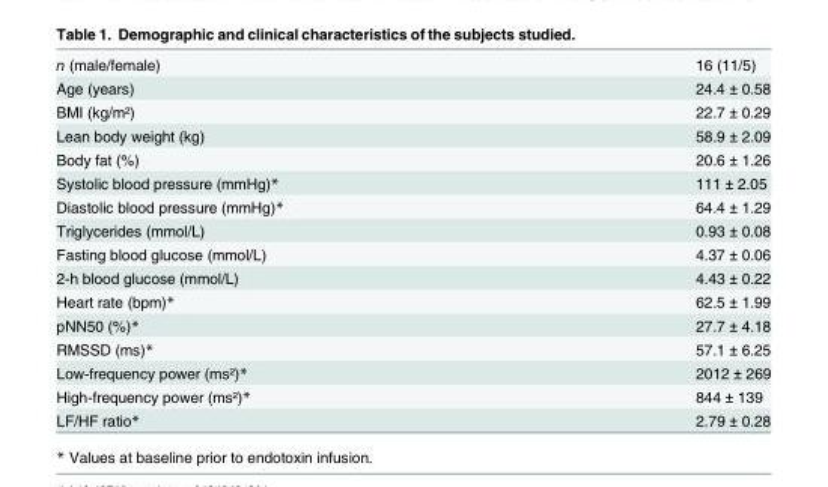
<table><tbody><tr><td>n (male/female)</td><td>16 (11/5)</td></tr><tr><td>Age (years)</td><td>24.4 ± 0.58</td></tr><tr><td>BMI (kg/m²)</td><td>22.7 ± 0.29</td></tr><tr><td>Lean body weight (kg)</td><td>58.9 ± 2.09</td></tr><tr><td>Body fat (%)</td><td>20.6 ± 1.26</td></tr><tr><td>Systolic blood pressure (mmHg)*</td><td>111 ± 2.05</td></tr><tr><td>Diastolic blood pressure (mmHg)*</td><td>64.4 ± 1.29</td></tr><tr><td>Triglycerides (mmol/L)</td><td>0.93 ± 0.08</td></tr><tr><td>Fasting blood glucose (mmol/L)</td><td>4.37 ± 0.06</td></tr><tr><td>2-h blood glucose (mmol/L)</td><td>4.43 ± 0.22</td></tr><tr><td>Heart rate (bpm)*</td><td>62.5 ± 1.99</td></tr><tr><td>pNN50 (%)*</td><td>27.7 ± 4.18</td></tr><tr><td>RMSSD (ms)*</td><td>57.1 ± 6.25</td></tr><tr><td>Low-frequency power (ms²)*</td><td>2012 ± 269</td></tr><tr><td>High-frequency power (ms²)*</td><td>844 ± 139</td></tr><tr><td>LF/HF ratio*</td><td>2.79 ± 0.28</td></tr></tbody></table>